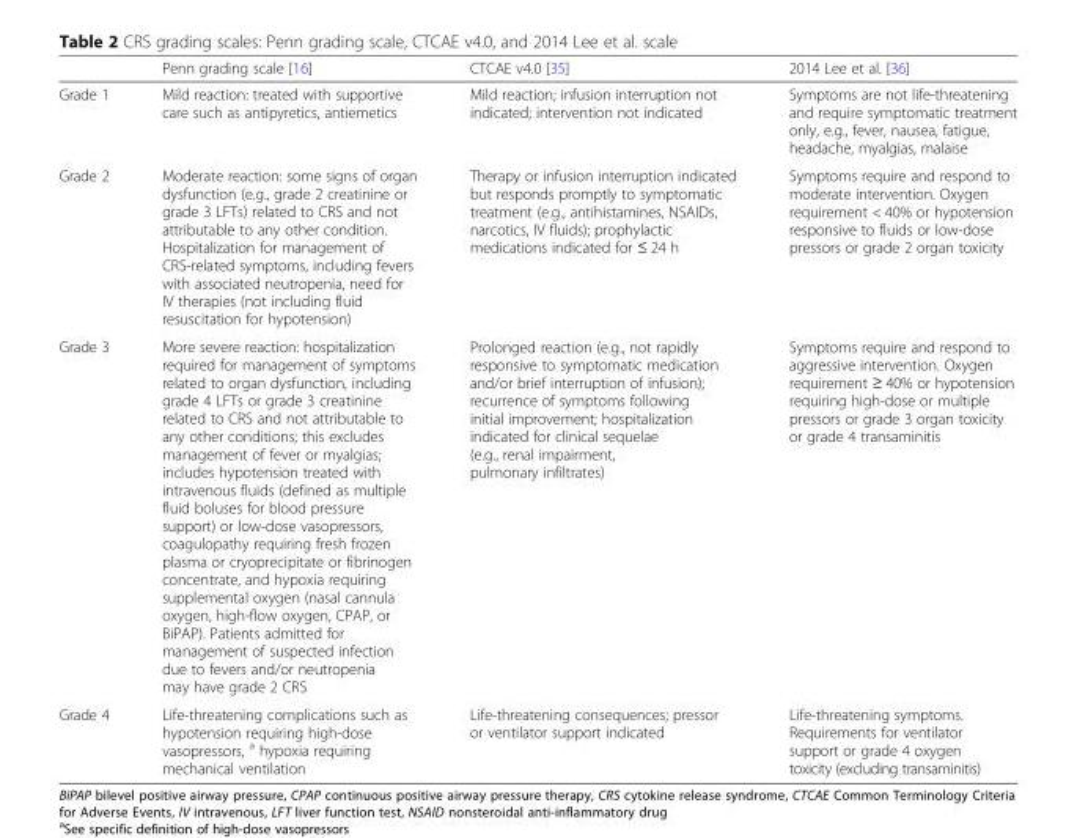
<table><thead><tr><td></td><td>Penn grading scale [16]</td><td>CTCAE v4.0 [35]</td><td>2014 Lee et al. [36]</td></tr></thead><tbody><tr><td>Grade 1</td><td>Mild reaction: treated with supportive care such as antipyretics, antiemetics</td><td>Mild reaction; infusion interruption not indicated; intervention not indicated</td><td>Symptoms are not life-threatening and require symptomatic treatment only, e.g., fever, nausea, fatigue, headache, myalgias, malaise</td></tr><tr><td>Grade 2</td><td>Moderate reaction: some signs of organ dysfunction (e.g., grade 2 creatinine or grade 3 LFTs) related to CRS and not attributable to any other condition. Hospitalization for management of CRS-related symptoms, including fevers with associated neutropenia, need for IV therapies (not including fluid resuscitation for hypotension)</td><td>Therapy or infusion interruption indicated but responds promptly to symptomatic treatment (e.g., antihistamines, NSAIDs, narcotics, IV fluids); prophylactic medications indicated for ≤ 24 h</td><td>Symptoms require and respond to moderate intervention. Oxygen requirement &lt; 40% or hypotension responsive to fluids or low-dose pressors or grade 2 organ toxicity</td></tr><tr><td>Grade 3</td><td>More severe reaction: hospitalization required for management of symptoms related to organ dysfunction, including grade 4 LFTs or grade 3 creatinine related to CRS and not attributable to any other conditions; this excludes management of fever or myalgias; includes hypotension treated with intravenous fluids (defined as multiple fluid boluses for blood pressure support) or low-dose vasopressors, coagulopathy requiring fresh frozen plasma or cryoprecipitate or fibrinogen concentrate, and hypoxia requiring supplemental oxygen (nasal cannula oxygen, high-flow oxygen, CPAP, or BiPAP). Patients admitted for management of suspected infection due to fevers and/or neutropenia may have grade 2 CRS</td><td>Prolonged reaction (e.g., not rapidly responsive to symptomatic medication and/or brief interruption of infusion); recurrence of symptoms following initial improvement; hospitalization indicated for clinical sequelae (e.g., renal impairment, pulmonary infiltrates)</td><td>Symptoms require and respond to aggressive intervention. Oxygen requirement ≥ 40% or hypotension requiring high-dose or multiple pressors or grade 3 organ toxicity or grade 4 transaminitis</td></tr><tr><td>Grade 4</td><td>Life-threatening complications such as hypotension requiring high-dose vasopressors, <sup>a</sup> hypoxia requiring mechanical ventilation</td><td>Life-threatening consequences; pressor or ventilator support indicated</td><td>Life-threatening symptoms. Requirements for ventilator support or grade 4 oxygen toxicity (excluding transaminitis)</td></tr></tbody></table>